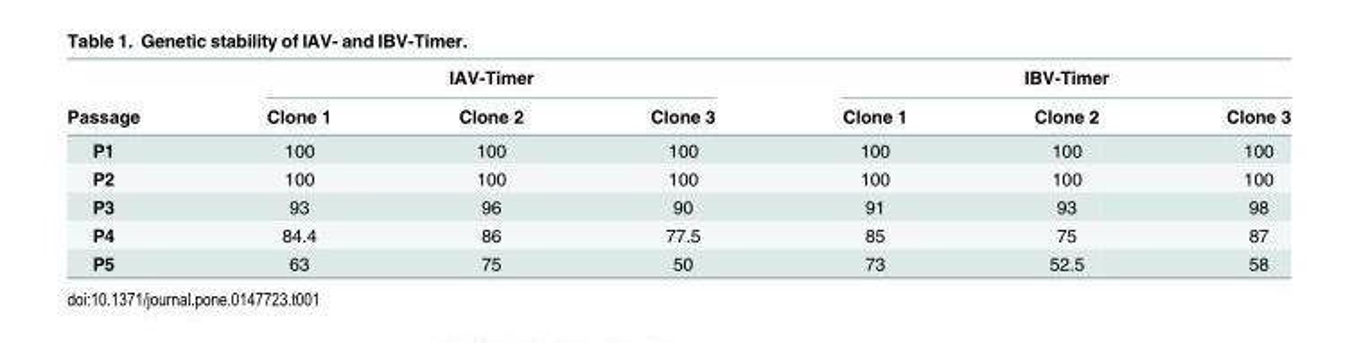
<table><thead><tr><td rowspan="2">Passage</td><td colspan="3">IAV-Timer</td><td colspan="3">IBV-Timer</td></tr><tr><td>Clone 1</td><td>Clone 2</td><td>Clone 3</td><td>Clone 1</td><td>Clone 2</td><td>Clone 3</td></tr></thead><tbody><tr><td>P1</td><td>100</td><td>100</td><td>100</td><td>100</td><td>100</td><td>100</td></tr><tr><td>P2</td><td>100</td><td>100</td><td>100</td><td>100</td><td>100</td><td>100</td></tr><tr><td>P3</td><td>93</td><td>96</td><td>90</td><td>91</td><td>93</td><td>98</td></tr><tr><td>P4</td><td>84.4</td><td>86</td><td>77.5</td><td>85</td><td>75</td><td>87</td></tr><tr><td>P5</td><td>63</td><td>75</td><td>50</td><td>73</td><td>52.5</td><td>58</td></tr></tbody></table>